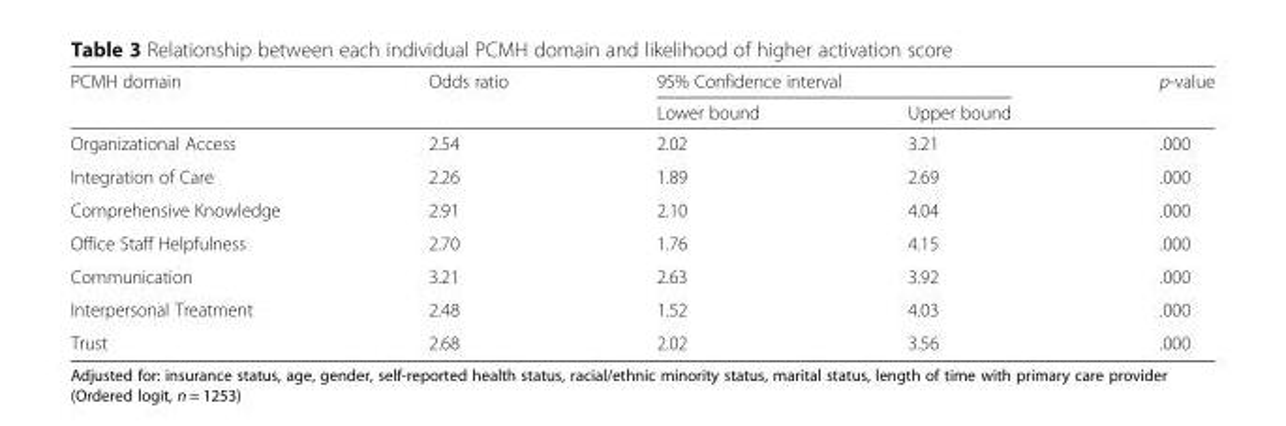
<table><thead><tr><td rowspan="2">PCMH domain</td><td rowspan="2">Odds ratio</td><td colspan="2">95% Confidence interval</td><td rowspan="2">p-value</td></tr><tr><td>Lower bound</td><td>Upper bound</td></tr></thead><tbody><tr><td>Organizational Access</td><td>2.54</td><td>2.02</td><td>3.21</td><td>.000</td></tr><tr><td>Integration of Care</td><td>2.26</td><td>1.89</td><td>2.69</td><td>.000</td></tr><tr><td>Comprehensive Knowledge</td><td>2.91</td><td>2.10</td><td>4.04</td><td>.000</td></tr><tr><td>Office Staff Helpfulness</td><td>2.70</td><td>1.76</td><td>4.15</td><td>.000</td></tr><tr><td>Communication</td><td>3.21</td><td>2.63</td><td>3.92</td><td>.000</td></tr><tr><td>Interpersonal Treatment</td><td>2.48</td><td>1.52</td><td>4.03</td><td>.000</td></tr><tr><td>Trust</td><td>2.68</td><td>2.02</td><td>3.56</td><td>.000</td></tr></tbody></table>